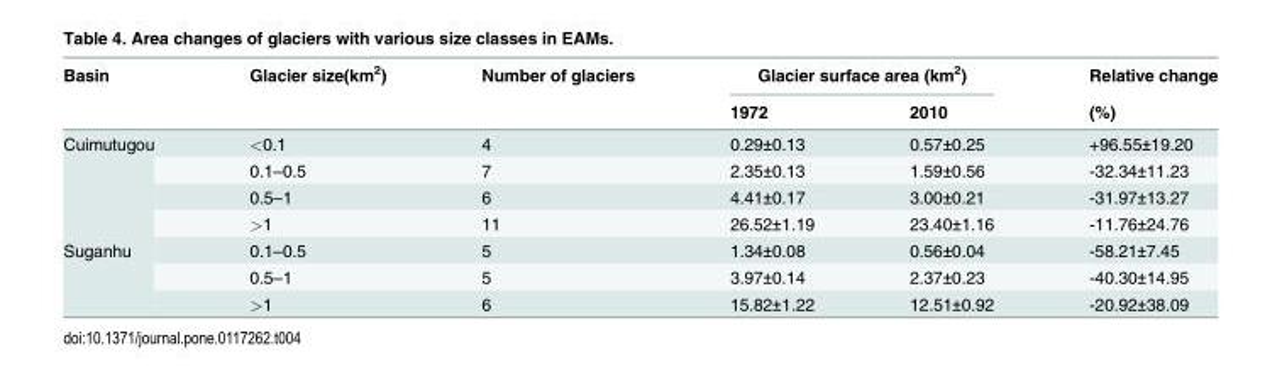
<table><thead><tr><td rowspan="2">Basin</td><td rowspan="2">Glacier size(km<sup>2</sup>)</td><td rowspan="2">Number of glaciers</td><td colspan="2">Glacier surface area (km<sup>2</sup>)</td><td rowspan="2">Relative change (%)</td></tr><tr><td>1972</td><td>2010</td></tr></thead><tbody><tr><td rowspan="4">Cuimutugou</td><td>&lt;0.1</td><td>4</td><td>0.29±0.13</td><td>0.57±0.25</td><td>+96.55±19.20</td></tr><tr><td>0.1–0.5</td><td>7</td><td>2.35±0.13</td><td>1.59±0.56</td><td>-32.34±11.23</td></tr><tr><td>0.5–1</td><td>6</td><td>4.41±0.17</td><td>3.00±0.21</td><td>-31.97±13.27</td></tr><tr><td>&gt;1</td><td>11</td><td>26.52±1.19</td><td>23.40±1.16</td><td>-11.76±24.76</td></tr><tr><td rowspan="3">Suganhu</td><td>0.1–0.5</td><td>5</td><td>1.34±0.08</td><td>0.56±0.04</td><td>-58.21±7.45</td></tr><tr><td>0.5–1</td><td>5</td><td>3.97±0.14</td><td>2.37±0.23</td><td>-40.30±14.95</td></tr><tr><td>&gt;1</td><td>6</td><td>15.82±1.22</td><td>12.51±0.92</td><td>-20.92±38.09</td></tr></tbody></table>